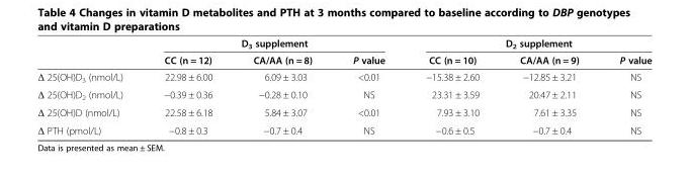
<table><thead><tr><td rowspan="2"></td><td colspan="3">D<sub>3</sub> supplement</td><td colspan="3">D<sub>2</sub> supplement</td></tr><tr><td>CC (n = 12)</td><td>CA/AA (n = 8)</td><td>P value</td><td>CC (n = 10)</td><td>CA/AA (n = 9)</td><td>P value</td></tr></thead><tbody><tr><td>Δ 25(OH)D<sub>3</sub> (nmol/L)</td><td>22.98 ± 6.00</td><td>6.09 ± 3.03</td><td>&lt;0.01</td><td>−15.38 ± 2.60</td><td>−12.85 ± 3.21</td><td>NS</td></tr><tr><td>Δ 25(OH)D<sub>2</sub> (nmol/L)</td><td>−0.39 ± 0.36</td><td>−0.28 ± 0.10</td><td>NS</td><td>23.31 ± 3.59</td><td>20.47 ± 2.11</td><td>NS</td></tr><tr><td>Δ 25(OH)D (nmol/L)</td><td>22.58 ± 6.18</td><td>5.84 ± 3.07</td><td>&lt;0.01</td><td>7.93 ± 3.10</td><td>7.61 ± 3.35</td><td>NS</td></tr><tr><td>Δ PTH (pmol/L)</td><td>−0.8 ± 0.3</td><td>−0.7 ± 0.4</td><td>NS</td><td>−0.6 ± 0.5</td><td>−0.7 ± 0.4</td><td>NS</td></tr></tbody></table>